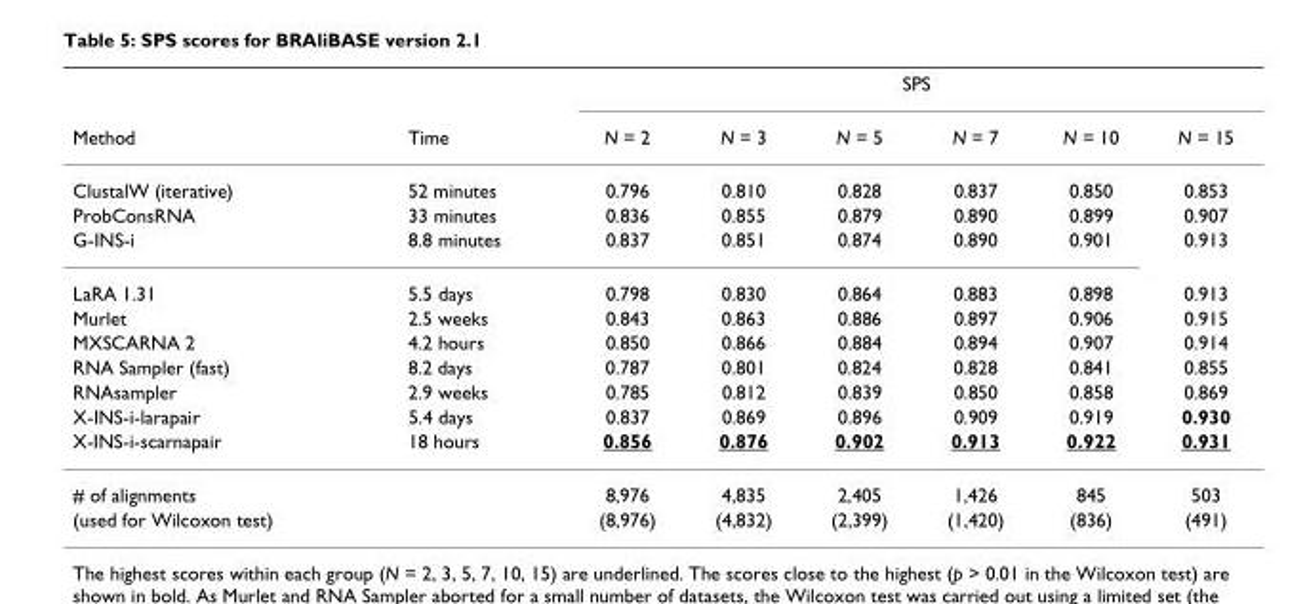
<table><thead><tr><td rowspan="2">Method</td><td rowspan="2">Time</td><td colspan="6">SPS</td></tr><tr><td>N = 2</td><td>N = 3</td><td>N = 5</td><td>N = 7</td><td>N = 10</td><td>N = 15</td></tr></thead><tbody><tr><td>ClustalW (iterative)</td><td>52 minutes</td><td>0.796</td><td>0.810</td><td>0.828</td><td>0.837</td><td>0.850</td><td>0.853</td></tr><tr><td>ProbConsRNA</td><td>33 minutes</td><td>0.836</td><td>0.855</td><td>0.879</td><td>0.890</td><td>0.899</td><td>0.907</td></tr><tr><td>G-INS-i</td><td>8.8 minutes</td><td>0.837</td><td>0.851</td><td>0.874</td><td>0.890</td><td>0.901</td><td>0.913</td></tr><tr><td>LaRA 1.31</td><td>5.5 days</td><td>0.798</td><td>0.830</td><td>0.864</td><td>0.883</td><td>0.898</td><td>0.913</td></tr><tr><td>Murlet</td><td>2.5 weeks</td><td>0.843</td><td>0.863</td><td>0.886</td><td>0.897</td><td>0.906</td><td>0.915</td></tr><tr><td>MXSCARNA 2</td><td>4.2 hours</td><td>0.850</td><td>0.866</td><td>0.884</td><td>0.894</td><td>0.907</td><td>0.914</td></tr><tr><td>RNA Sampler (fast)</td><td>8.2 days</td><td>0.787</td><td>0.801</td><td>0.824</td><td>0.828</td><td>0.841</td><td>0.855</td></tr><tr><td>RNAsampler</td><td>2.9 weeks</td><td>0.785</td><td>0.812</td><td>0.839</td><td>0.850</td><td>0.858</td><td>0.869</td></tr><tr><td>X-INS-i-larapair</td><td>5.4 days</td><td>0.837</td><td>0.869</td><td>0.896</td><td>0.909</td><td>0.919</td><td>0.930</td></tr><tr><td>X-INS-i-scarnapair</td><td>18 hours</td><td>0.856</td><td>0.876</td><td>0.902</td><td>0.913</td><td>0.922</td><td>0.931</td></tr><tr><td># of alignments</td><td></td><td>8,976</td><td>4,835</td><td>2,405</td><td>1,426</td><td>845</td><td>503</td></tr><tr><td>(used for Wilcoxon test)</td><td></td><td>(8,976)</td><td>(4,832)</td><td>(2,399)</td><td>(1,420)</td><td>(836)</td><td>(491)</td></tr></tbody></table>